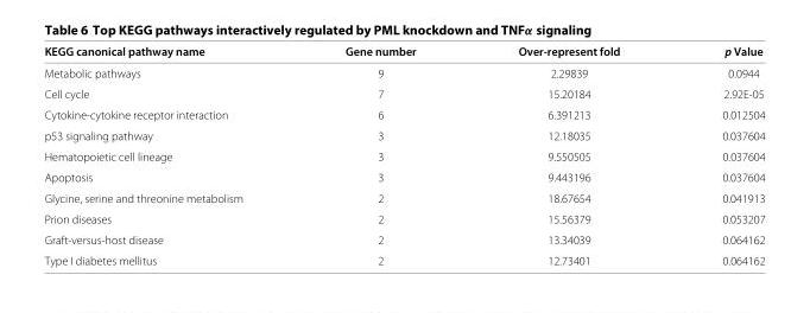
<table><thead><tr><td>KEGG canonical pathway name</td><td>Gene number</td><td>Over-represent fold</td><td>p Value</td></tr></thead><tbody><tr><td>Metabolic pathways</td><td>9</td><td>2.29839</td><td>0.0944</td></tr><tr><td>Cell cycle</td><td>7</td><td>15.20184</td><td>2.92E-05</td></tr><tr><td>Cytokine-cytokine receptor interaction</td><td>6</td><td>6.391213</td><td>0.012504</td></tr><tr><td>p53 signaling pathway</td><td>3</td><td>12.18035</td><td>0.037604</td></tr><tr><td>Hematopoietic cell lineage</td><td>3</td><td>9.550505</td><td>0.037604</td></tr><tr><td>Apoptosis</td><td>3</td><td>9.443196</td><td>0.037604</td></tr><tr><td>Glycine, serine and threonine metabolism</td><td>2</td><td>18.67654</td><td>0.041913</td></tr><tr><td>Prion diseases</td><td>2</td><td>15.56379</td><td>0.053207</td></tr><tr><td>Graft-versus-host disease</td><td>2</td><td>13.34039</td><td>0.064162</td></tr><tr><td>Type I diabetes mellitus</td><td>2</td><td>12.73401</td><td>0.064162</td></tr></tbody></table>